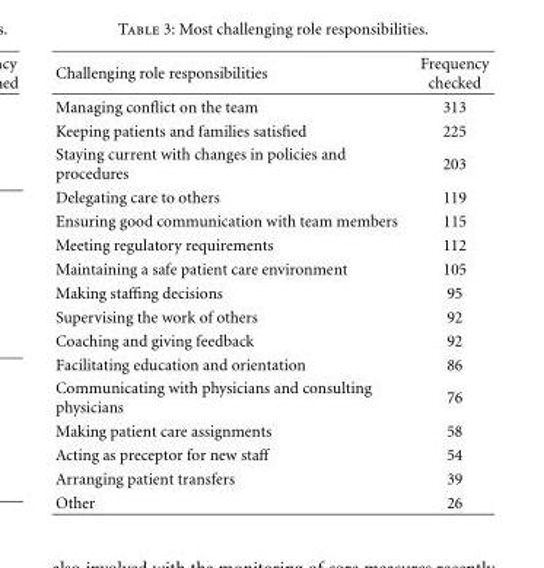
<table><thead><tr><td>Challenging role responsibilities</td><td>Frequency checked</td></tr></thead><tbody><tr><td>Managing conflict on the team</td><td>313</td></tr><tr><td>Keeping patients and families satisfied</td><td>225</td></tr><tr><td>Staying current with changes in policies and procedures</td><td>203</td></tr><tr><td>Delegating care to others</td><td>119</td></tr><tr><td>Ensuring good communication with team members</td><td>115</td></tr><tr><td>Meeting regulatory requirements</td><td>112</td></tr><tr><td>Maintaining a safe patient care environment</td><td>105</td></tr><tr><td>Making staffing decisions</td><td>95</td></tr><tr><td>Supervising the work of others</td><td>92</td></tr><tr><td>Coaching and giving feedback</td><td>92</td></tr><tr><td>Facilitating education and orientation</td><td>86</td></tr><tr><td>Communicating with physicians and consulting physicians</td><td>76</td></tr><tr><td>Making patient care assignments</td><td>58</td></tr><tr><td>Acting as preceptor for new staff</td><td>54</td></tr><tr><td>Arranging patient transfers</td><td>39</td></tr><tr><td>Other</td><td>26</td></tr></tbody></table>